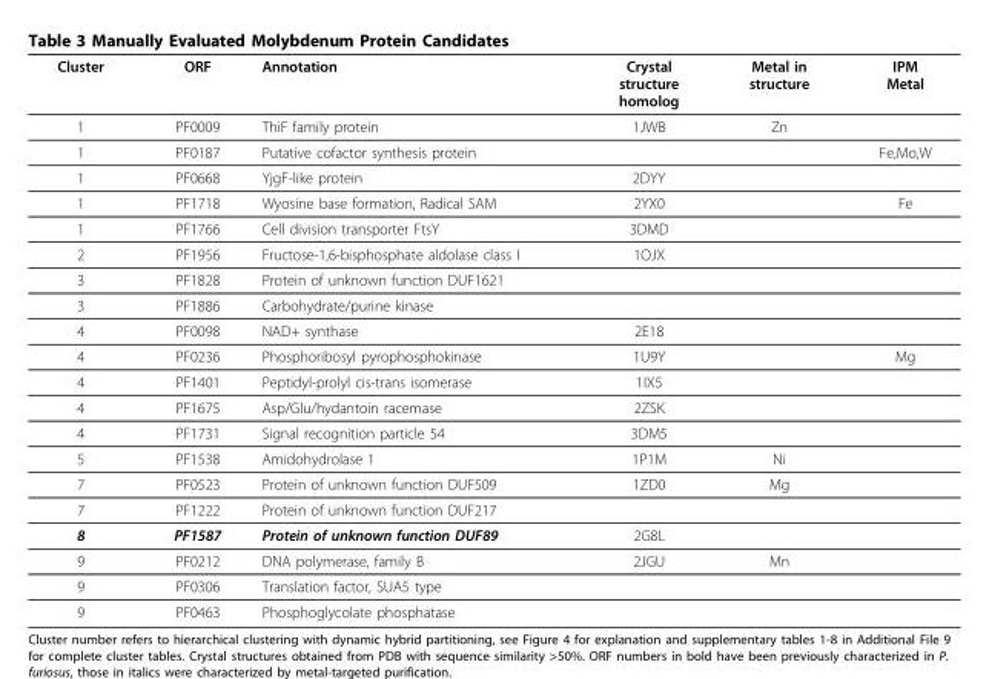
<table><thead><tr><td>Cluster</td><td>ORF</td><td>Annotation</td><td>Crystal structure homolog</td><td>Metal in structure</td><td>IPM Metal</td></tr></thead><tbody><tr><td>1</td><td>PF0009</td><td>ThiF family protein</td><td>1JWB</td><td>Zn</td><td></td></tr><tr><td>1</td><td>PF0187</td><td>Putative cofactor synthesis protein</td><td></td><td></td><td>Fe,Mo,W</td></tr><tr><td>1</td><td>PF0668</td><td>YjgF-like protein</td><td>2DYY</td><td></td><td></td></tr><tr><td>1</td><td>PF1718</td><td>Wyosine base formation, Radical SAM</td><td>2YX0</td><td></td><td>Fe</td></tr><tr><td>1</td><td>PF1766</td><td>Cell division transporter FtsY</td><td>3DMD</td><td></td><td></td></tr><tr><td>2</td><td>PF1956</td><td>Fructose-1,6-bisphosphate aldolase class I</td><td>1OJX</td><td></td><td></td></tr><tr><td>3</td><td>PF1828</td><td>Protein of unknown function DUF1621</td><td></td><td></td><td></td></tr><tr><td>3</td><td>PF1886</td><td>Carbohydrate/purine kinase</td><td></td><td></td><td></td></tr><tr><td>4</td><td>PF0098</td><td>NAD+ synthase</td><td>2E18</td><td></td><td></td></tr><tr><td>4</td><td>PF0236</td><td>Phosphoribosyl pyrophosphokinase</td><td>1U9Y</td><td></td><td>Mg</td></tr><tr><td>4</td><td>PF1401</td><td>Peptidyl-prolyl cis-trans isomerase</td><td>1IX5</td><td></td><td></td></tr><tr><td>4</td><td>PF1675</td><td>Asp/Glu/hydantoin racemase</td><td>2ZSK</td><td></td><td></td></tr><tr><td>4</td><td>PF1731</td><td>Signal recognition particle 54</td><td>3DM5</td><td></td><td></td></tr><tr><td>5</td><td>PF1538</td><td>Amidohydrolase 1</td><td>1P1M</td><td>Ni</td><td></td></tr><tr><td>7</td><td>PF0523</td><td>Protein of unknown function DUF509</td><td>1ZD0</td><td>Mg</td><td></td></tr><tr><td>7</td><td>PF1222</td><td>Protein of unknown function DUF217</td><td></td><td></td><td></td></tr><tr><td>8</td><td>PF1587</td><td>Protein of unknown function DUF89</td><td>2G8L</td><td></td><td></td></tr><tr><td>9</td><td>PF0212</td><td>DNA polymerase, family B</td><td>2JGU</td><td>Mn</td><td></td></tr><tr><td>9</td><td>PF0306</td><td>Translation factor, SUA5 type</td><td></td><td></td><td></td></tr><tr><td>9</td><td>PF0463</td><td>Phosphoglycolate phosphatase</td><td></td><td></td><td></td></tr></tbody></table>